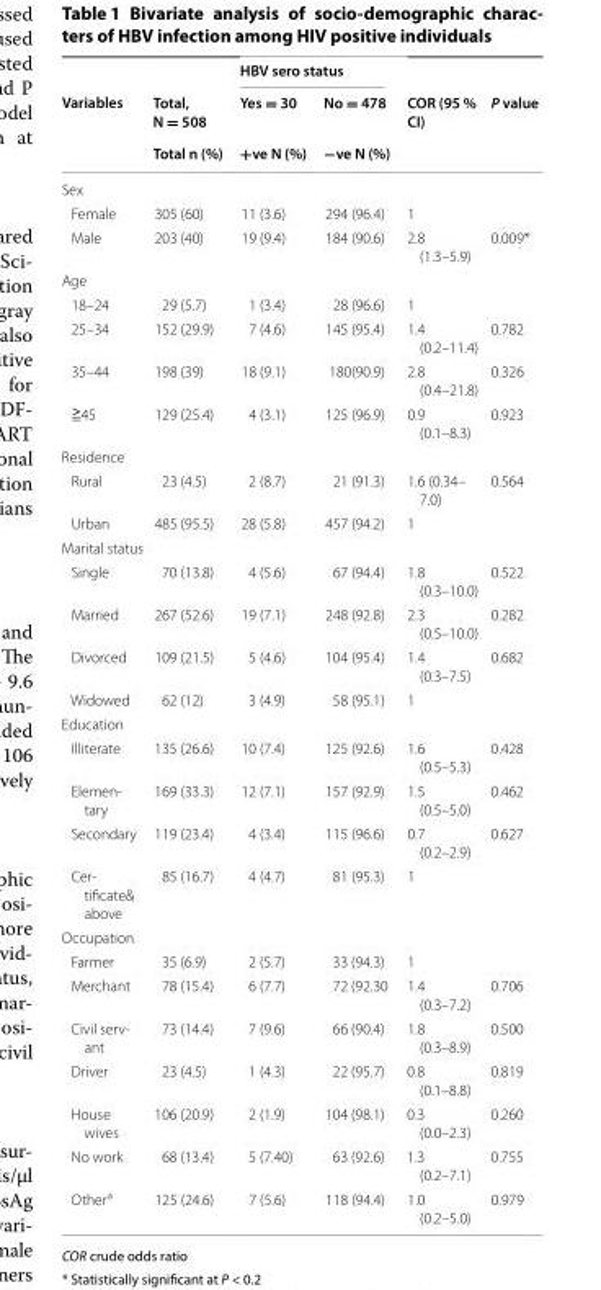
<table><thead><tr><td rowspan="3">Variables</td><td rowspan="3">Total, N = 508 Total n (%)</td><td colspan="2">HBV sero status</td><td rowspan="3">COR (95 % CI)</td><td rowspan="3">P value</td></tr><tr><td rowspan="2">Yes = 30 +ve N (%)</td><td rowspan="2">No = 478 −ve N (%)</td></tr><tr></tr></thead><tbody><tr><td colspan="6">Sex</td></tr><tr><td>Female</td><td>305 (60)</td><td>11 (3.6)</td><td>294 (96.4)</td><td>1</td><td></td></tr><tr><td>Male</td><td>203 (40)</td><td>19 (9.4)</td><td>184 (90.6)</td><td>2.8 (1.3–5.9)</td><td>0.009*</td></tr><tr><td colspan="6">Age</td></tr><tr><td>18–24</td><td>29 (5.7)</td><td>1 (3.4)</td><td>28 (96.6)</td><td>1</td><td></td></tr><tr><td>25–34</td><td>152 (29.9)</td><td>7 (4.6)</td><td>145 (95.4)</td><td>1.4 (0.2–11.4)</td><td>0.782</td></tr><tr><td>35–44</td><td>198 (39)</td><td>18 (9.1)</td><td>180(90.9)</td><td>2.8 (0.4–21.8)</td><td>0.326</td></tr><tr><td>≧45</td><td>129 (25.4)</td><td>4 (3.1)</td><td>125 (96.9)</td><td>0.9 (0.1–8.3)</td><td>0.923</td></tr><tr><td colspan="6">Residence</td></tr><tr><td>Rural</td><td>23 (4.5)</td><td>2 (8.7)</td><td>21 (91.3)</td><td>1.6 (0.34– 7.0)</td><td>0.564</td></tr><tr><td>Urban</td><td>485 (95.5)</td><td>28 (5.8)</td><td>457 (94.2)</td><td>1</td><td></td></tr><tr><td colspan="6">Marital status</td></tr><tr><td>Single</td><td>70 (13.8)</td><td>4 (5.6)</td><td>67 (94.4)</td><td>1.8 (0.3–10.0)</td><td>0.522</td></tr><tr><td>Married</td><td>267 (52.6)</td><td>19 (7.1)</td><td>248 (92.8)</td><td>2.3 (0.5–10.0)</td><td>0.282</td></tr><tr><td>Divorced</td><td>109 (21.5)</td><td>5 (4.6)</td><td>104 (95.4)</td><td>1.4 (0.3–7.5)</td><td>0.682</td></tr><tr><td>Widowed</td><td>62 (12)</td><td>3 (4.9)</td><td>58 (95.1)</td><td>1</td><td></td></tr><tr><td colspan="6">Education</td></tr><tr><td>Illiterate</td><td>135 (26.6)</td><td>10 (7.4)</td><td>125 (92.6)</td><td>1.6 (0.5–5.3)</td><td>0.428</td></tr><tr><td>Elemen- tary</td><td>169 (33.3)</td><td>12 (7.1)</td><td>157 (92.9)</td><td>1.5 (0.5–5.0)</td><td>0.462</td></tr><tr><td>Secondary</td><td>119 (23.4)</td><td>4 (3.4)</td><td>115 (96.6)</td><td>0.7 (0.2–2.9)</td><td>0.627</td></tr><tr><td>Cer- tificate&amp; above</td><td>85 (16.7)</td><td>4 (4.7)</td><td>81 (95.3)</td><td>1</td><td></td></tr><tr><td colspan="6">Occupation</td></tr><tr><td>Farmer</td><td>35 (6.9)</td><td>2 (5.7)</td><td>33 (94.3)</td><td>1</td><td></td></tr><tr><td>Merchant</td><td>78 (15.4)</td><td>6 (7.7)</td><td>72 (92.30</td><td>1.4 (0.3–7.2)</td><td>0.706</td></tr><tr><td>Civil serv- ant</td><td>73 (14.4)</td><td>7 (9.6)</td><td>66 (90.4)</td><td>1.8 (0.3–8.9)</td><td>0.500</td></tr><tr><td>Driver</td><td>23 (4.5)</td><td>1 (4.3)</td><td>22 (95.7)</td><td>0.8 (0.1–8.8)</td><td>0.819</td></tr><tr><td>House wives</td><td>106 (20.9)</td><td>2 (1.9)</td><td>104 (98.1)</td><td>0.3 (0.0–2.3)</td><td>0.260</td></tr><tr><td>No work</td><td>68 (13.4)</td><td>5 (7.40)</td><td>63 (92.6)</td><td>1.3 (0.2–7.1)</td><td>0.755</td></tr><tr><td>Other<sup>a</sup></td><td>125 (24.6)</td><td>7 (5.6)</td><td>118 (94.4)</td><td>1.0 (0.2–5.0)</td><td>0.979</td></tr></tbody></table>